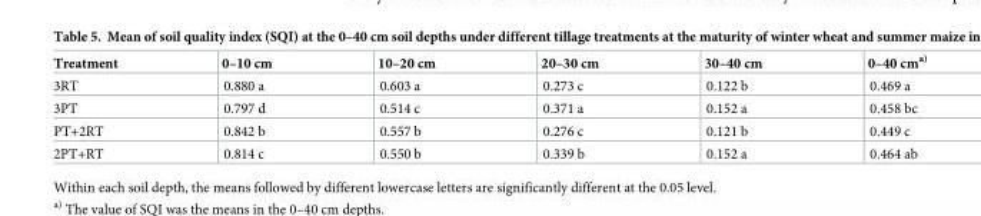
<table><thead><tr><td>Treatment</td><td>0–10 cm</td><td>10–20 cm</td><td>20–30 cm</td><td>30–40 cm</td><td>0–40 cm<sup>a)</sup></td></tr></thead><tbody><tr><td>3RT</td><td>0.880 a</td><td>0.603 a</td><td>0.273 c</td><td>0.122 b</td><td>0.469 a</td></tr><tr><td>3PT</td><td>0.797 d</td><td>0.514 c</td><td>0.371 a</td><td>0.152 a</td><td>0.458 bc</td></tr><tr><td>PT+2RT</td><td>0.842 b</td><td>0.557 b</td><td>0.276 c</td><td>0.121 b</td><td>0.449 c</td></tr><tr><td>2PT+RT</td><td>0.814 c</td><td>0.550 b</td><td>0.339 b</td><td>0.152 a</td><td>0.464 ab</td></tr></tbody></table>